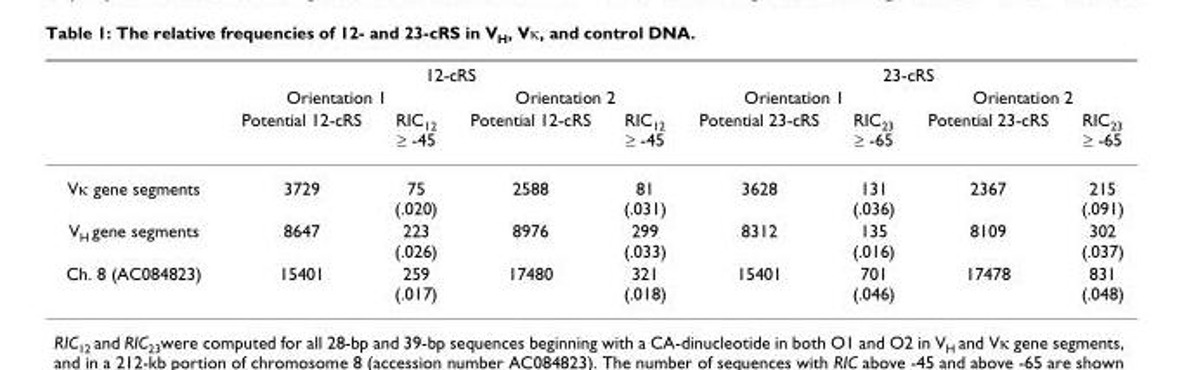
<table><thead><tr><td rowspan="3"></td><td colspan="4">12-cRS</td><td colspan="4">23-cRS</td></tr><tr><td colspan="2">Orientation 1</td><td colspan="2">Orientation 2</td><td colspan="2">Orientation 1</td><td colspan="2">Orientation 2</td></tr><tr><td>Potential 12-cRS</td><td>RIC<sub>12</sub> ≥ -45</td><td>Potential 12-cRS</td><td>RIC<sub>12</sub> ≥ -45</td><td>Potential 23-cRS</td><td>RIC<sub>23</sub> ≥ -65</td><td>Potential 23-cRS</td><td>RIC<sub>23</sub> ≥ -65</td></tr></thead><tbody><tr><td>Vκ gene segments</td><td>3729</td><td>75 (.020)</td><td>2588</td><td>81 (.031)</td><td>3628</td><td>131 (.036)</td><td>2367</td><td>215 (.091)</td></tr><tr><td>V<sub>H</sub> gene segments</td><td>8647</td><td>223 (.026)</td><td>8976</td><td>299 (.033)</td><td>8312</td><td>135 (.016)</td><td>8109</td><td>302 (.037)</td></tr><tr><td>Ch. 8 (AC084823)</td><td>15401</td><td>259 (.017)</td><td>17480</td><td>321 (.018)</td><td>15401</td><td>701 (.046)</td><td>17478</td><td>831 (.048)</td></tr></tbody></table>